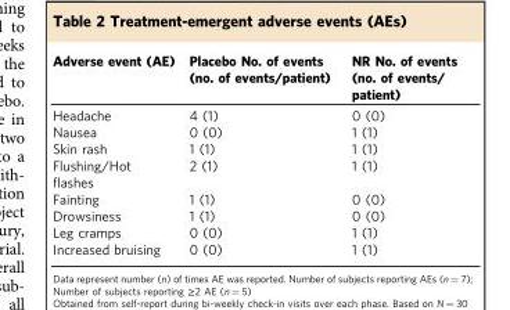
<table><thead><tr><td>Adverse event (AE)</td><td>Placebo No. of events (no. of events/patient)</td><td>NR No. of events (no. of events/ patient)</td></tr></thead><tbody><tr><td>Headache</td><td>4 (1)</td><td>0 (0)</td></tr><tr><td>Nausea</td><td>0 (0)</td><td>1 (1)</td></tr><tr><td>Skin rash</td><td>1 (1)</td><td>1 (1)</td></tr><tr><td>Flushing/Hot flashes</td><td>2 (1)</td><td>1 (1)</td></tr><tr><td>Fainting</td><td>1 (1)</td><td>0 (0)</td></tr><tr><td>Drowsiness</td><td>1 (1)</td><td>0 (0)</td></tr><tr><td>Leg cramps</td><td>0 (0)</td><td>1 (1)</td></tr><tr><td>Increased bruising</td><td>0 (0)</td><td>1 (1)</td></tr></tbody></table>